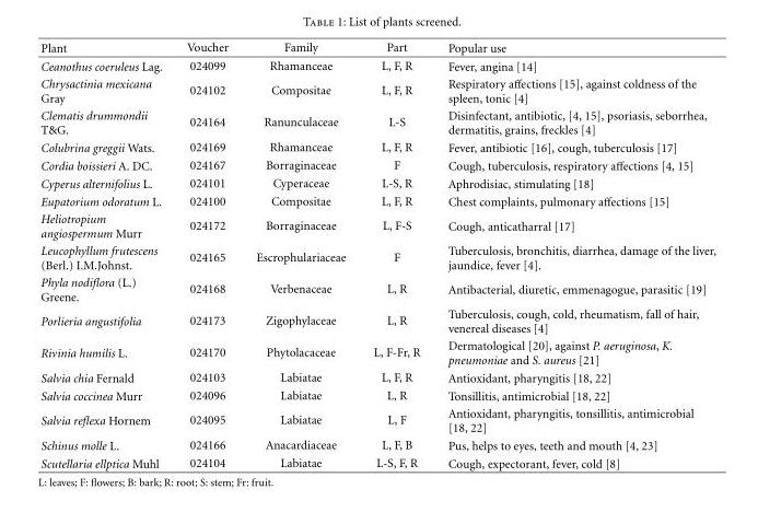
<table><thead><tr><td>Plant</td><td>Voucher</td><td>Family</td><td>Part</td><td>Popular use</td></tr></thead><tbody><tr><td>Ceanothus coeruleus Lag.</td><td>024099</td><td>Rhamanceae</td><td>L, F, R</td><td>Fever, angina [14]</td></tr><tr><td>Chrysactinia mexicana Gray</td><td>024102</td><td>Compositae</td><td>L, F, R</td><td>Respiratory affections [15], against coldness of the spleen, tonic [4]</td></tr><tr><td>Clematis drummondii T&amp;G.</td><td>024164</td><td>Ranunculaceae</td><td>L-S</td><td>Disinfectant, antibiotic, [4, 15], psoriasis, seborrhea, dermatitis, grains, freckles [4]</td></tr><tr><td>Colubrina greggii Wats.</td><td>024169</td><td>Rhamanceae</td><td>L, F, R</td><td>Fever, antibiotic [16], cough, tuberculosis [17]</td></tr><tr><td>Cordia boissieri A. DC.</td><td>024167</td><td>Borraginaceae</td><td>F</td><td>Cough, tuberculosis, respiratory affections [4, 15]</td></tr><tr><td>Cyperus alternifolius L.</td><td>024101</td><td>Cyperaceae</td><td>L-S, R</td><td>Aphrodisiac, stimulating [18]</td></tr><tr><td>Eupatorium odoratum L.</td><td>024100</td><td>Compositae</td><td>L, F, R</td><td>Chest complaints, pulmonary affections [15]</td></tr><tr><td>Heliotropium angiospermum Murr</td><td>024172</td><td>Borraginaceae</td><td>L, F-S</td><td>Cough, anticatharral [17]</td></tr><tr><td>Leucophyllum frutescens (Berl.) I.M.Johnst.</td><td>024165</td><td>Escrophulariaceae</td><td>F</td><td>Tuberculosis, bronchitis, diarrhea, damage of the liver, jaundice, fever [4].</td></tr><tr><td>Phyla nodiflora (L.) Greene.</td><td>024168</td><td>Verbenaceae</td><td>L, R</td><td>Antibacterial, diuretic, emmenagogue, parasitic [19]</td></tr><tr><td>Porlieria angustifolia</td><td>024173</td><td>Zigophylaceae</td><td>L, R</td><td>Tuberculosis, cough, cold, rheumatism, fall of hair, venereal diseases [4]</td></tr><tr><td>Rivinia humilis L.</td><td>024170</td><td>Phytolacaceae</td><td>L, F-Fr, R</td><td>Dermatological [20], against P. aeruginosa, K. pneumoniae and S. aureus [21]</td></tr><tr><td>Salvia chia Fernald</td><td>024103</td><td>Labiatae</td><td>L, F, R</td><td>Antioxidant, pharyngitis [18, 22]</td></tr><tr><td>Salvia coccinea Murr</td><td>024096</td><td>Labiatae</td><td>L, R</td><td>Tonsillitis, antimicrobial [18, 22]</td></tr><tr><td>Salvia reflexa Hornem</td><td>024095</td><td>Labiatae</td><td>L, F</td><td>Antioxidant, pharyngitis, tonsillitis, antimicrobial [18, 22]</td></tr><tr><td>Schinus molle L.</td><td>024166</td><td>Anacardiaceae</td><td>L, F, B</td><td>Pus, helps to eyes, teeth and mouth [4, 23]</td></tr><tr><td>Scutellaria ellptica Muhl</td><td>024104</td><td>Labiatae</td><td>L-S, F, R</td><td>Cough, expectorant, fever, cold [8]</td></tr></tbody></table>